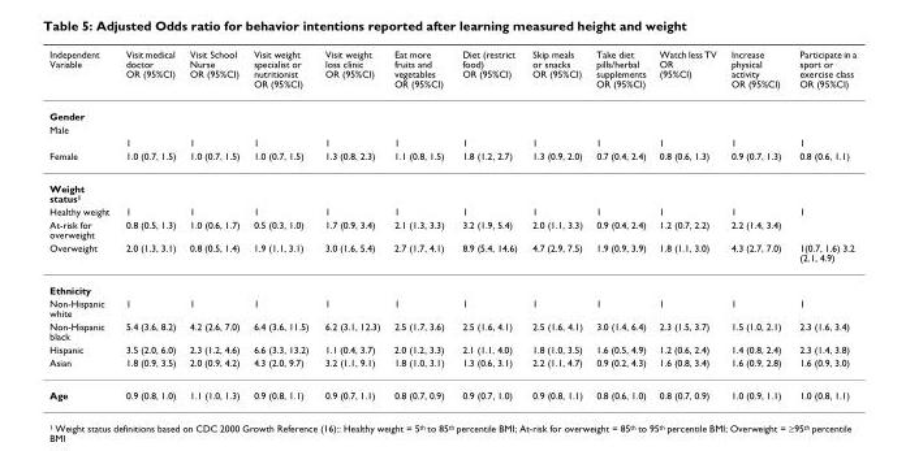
<table><thead><tr><td>Independent Variable</td><td>Visit medical doctor OR (95%CI)</td><td>Visit School Nurse OR (95%CI)</td><td>Visit weight specialist or nutritionist OR (95%CI)</td><td>Visit weight loss clinic OR (95%CI)</td><td>Eat more fruits and vegetables OR (95%CI)</td><td>Diet (restrict food) OR (95%CI)</td><td>Skip meals or snacks OR (95%CI)</td><td>Take diet pills/herbal supplements OR (95%CI)</td><td>Watch less TV OR (95%CI)</td><td>Increase physical activity OR (95%CI)</td><td>Participate in a sport or exercise class OR (95%CI)</td></tr></thead><tbody><tr><td colspan="12">Gender</td></tr><tr><td colspan="12">Male</td></tr><tr><td></td><td>1</td><td>1</td><td>1</td><td>1</td><td>1</td><td>1</td><td>1</td><td>1</td><td>1</td><td>1</td><td>1</td></tr><tr><td>Female</td><td>1.0 (0.7, 1.5)</td><td>1.0 (0.7, 1.5)</td><td>1.0 (0.7, 1.5)</td><td>1.3 (0.8, 2.3)</td><td>1.1 (0.8, 1.5)</td><td>1.8 (1.2, 2.7)</td><td>1.3 (0.9, 2.0)</td><td>0.7 (0.4, 2.4)</td><td>0.8 (0.6, 1.3)</td><td>0.9 (0.7, 1.3)</td><td>0.8 (0.6, 1.1)</td></tr><tr><td colspan="12">Weight status<sup>1</sup></td></tr><tr><td>Healthy weight</td><td>1</td><td>1</td><td>1</td><td>1</td><td>1</td><td>1</td><td>1</td><td>1</td><td>1</td><td>1</td><td>1</td></tr><tr><td>At-risk for overweight</td><td>0.8 (0.5, 1.3)</td><td>1.0 (0.6, 1.7)</td><td>0.5 (0.3, 1.0)</td><td>1.7 (0.9, 3.4)</td><td>2.1 (1.3, 3.3)</td><td>3.2 (1.9, 5.4)</td><td>2.0 (1.1, 3.3)</td><td>0.9 (0.4, 2.4)</td><td>1.2 (0.7, 2.2)</td><td>2.2 (1.4, 3.4)</td><td></td></tr><tr><td>Overweight</td><td>2.0 (1.3, 3.1)</td><td>0.8 (0.5, 1.4)</td><td>1.9 (1.1, 3.1)</td><td>3.0 (1.6, 5.4)</td><td>2.7 (1.7, 4.1)</td><td>8.9 (5.4, 14.6)</td><td>4.7 (2.9, 7.5)</td><td>1.9 (0.9, 3.9)</td><td>1.8 (1.1, 3.0)</td><td>4.3 (2.7, 7.0)</td><td>1(0.7, 1.6) 3.2 (2.1, 4.9)</td></tr><tr><td colspan="12">Ethnicity</td></tr><tr><td>Non-Hispanic white</td><td>1</td><td>1</td><td>1</td><td>1</td><td>1</td><td>1</td><td>1</td><td>1</td><td>1</td><td>1</td><td>1</td></tr><tr><td>Non-Hispanic black</td><td>5.4 (3.6, 8.2)</td><td>4.2 (2.6, 7.0)</td><td>6.4 (3.6, 11.5)</td><td>6.2 (3.1, 12.3)</td><td>2.5 (1.7, 3.6)</td><td>2.5 (1.6, 4.1)</td><td>2.5 (1.6, 4.1)</td><td>3.0 (1.4, 6.4)</td><td>2.3 (1.5, 3.7)</td><td>1.5 (1.0, 2.1)</td><td>2.3 (1.6, 3.4)</td></tr><tr><td>Hispanic</td><td>3.5 (2.0, 6.0)</td><td>2.3 (1.2, 4.6)</td><td>6.6 (3.3, 13.2)</td><td>1.1 (0.4, 3.7)</td><td>2.0 (1.2, 3.3)</td><td>2.1 (1.1, 4.0)</td><td>1.8 (1.0, 3.5)</td><td>1.6 (0.5, 4.9)</td><td>1.2 (0.6, 2.4)</td><td>1.4 (0.8, 2.4)</td><td>2.3 (1.4, 3.8)</td></tr><tr><td>Asian</td><td>1.8 (0.9, 3.5)</td><td>2.0 (0.9, 4.2)</td><td>4.3 (2.0, 9.7)</td><td>3.2 (1.1, 9.1)</td><td>1.8 (1.0, 3.1)</td><td>1.3 (0.6, 3.1)</td><td>2.2 (1.1, 4.7)</td><td>0.9 (0.2, 4.3)</td><td>1.6 (0.8, 3.4)</td><td>1.6 (0.9, 2.8)</td><td>1.6 (0.9, 3.0)</td></tr><tr><td>Age</td><td>0.9 (0.8, 1.0)</td><td>1.1 (1.0, 1.3)</td><td>0.9 (0.8, 1.1)</td><td>0.9 (0.7, 1.1)</td><td>0.8 (0.7, 0.9)</td><td>0.9 (0.7, 1.0)</td><td>0.9 (0.8, 1.1)</td><td>0.8 (0.6, 1.0)</td><td>0.8 (0.7, 0.9)</td><td>1.0 (0.9, 1.1)</td><td>1.0 (0.8, 1.1)</td></tr></tbody></table>